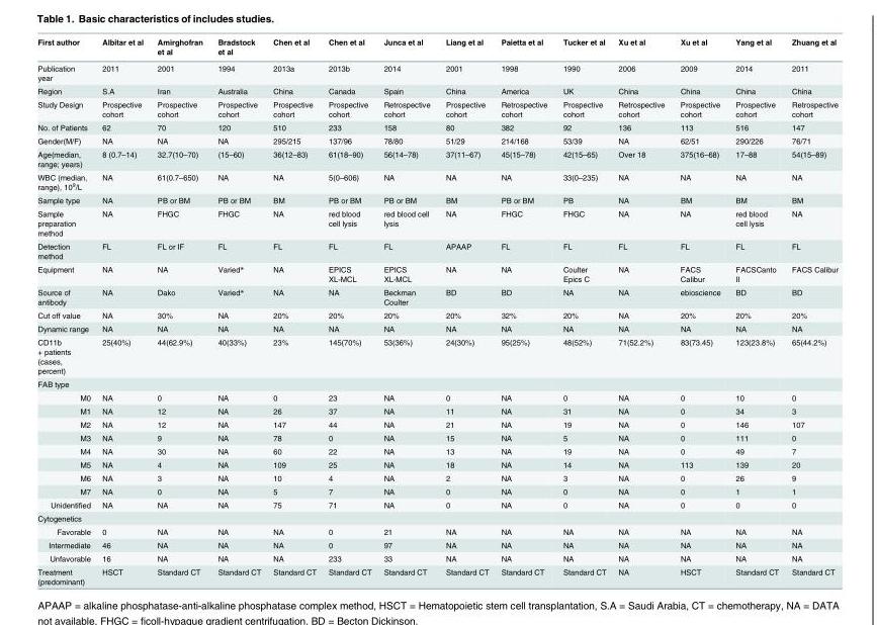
<table><thead><tr><td>First author</td><td>Albitar et al</td><td>Amirghofran et al</td><td>Bradstock et al</td><td>Chen et al</td><td>Chen et al</td><td>Junca et al</td><td>Liang et al</td><td>Paietta et al</td><td>Tucker et al</td><td>Xu et al</td><td>Xu et al</td><td>Yang et al</td><td>Zhuang et al</td></tr></thead><tbody><tr><td>Publication year</td><td>2011</td><td>2001</td><td>1994</td><td>2013a</td><td>2013b</td><td>2014</td><td>2001</td><td>1998</td><td>1990</td><td>2006</td><td>2009</td><td>2014</td><td>2011</td></tr><tr><td>Region</td><td>S.A</td><td>Iran</td><td>Australia</td><td>China</td><td>Canada</td><td>Spain</td><td>China</td><td>America</td><td>UK</td><td>China</td><td>China</td><td>China</td><td>China</td></tr><tr><td>Study Design</td><td>Prospective cohort</td><td>Prospective cohort</td><td>Prospective cohort</td><td>Prospective cohort</td><td>Prospective cohort</td><td>Retrospective cohort</td><td>Prospective cohort</td><td>Retrospective cohort</td><td>Prospective cohort</td><td>Retrospective cohort</td><td>Prospective cohort</td><td>Prospective cohort</td><td>Retrospective cohort</td></tr><tr><td>No. of Patients</td><td>62</td><td>70</td><td>120</td><td>510</td><td>233</td><td>158</td><td>80</td><td>382</td><td>92</td><td>136</td><td>113</td><td>516</td><td>147</td></tr><tr><td>Gender(M/F)</td><td>NA</td><td>NA</td><td>NA</td><td>295/215</td><td>137/96</td><td>78/80</td><td>51/29</td><td>214/168</td><td>53/39</td><td>NA</td><td>62/51</td><td>290/226</td><td>76/71</td></tr><tr><td>Age(median, range; years)</td><td>8 (0.7–14)</td><td>32.7(10–70)</td><td>(15–60)</td><td>36(12–83)</td><td>61(18–90)</td><td>56(14–78)</td><td>37(11–67)</td><td>45(15–78)</td><td>42(15–65)</td><td>Over 18</td><td>375(16–68)</td><td>17–88</td><td>54(15–89)</td></tr><tr><td>WBC (median, range), 10<sup>9</sup>/L</td><td>NA</td><td>61(0.7–650)</td><td>NA</td><td>NA</td><td>5(0–606)</td><td>NA</td><td>NA</td><td>NA</td><td>33(0–235)</td><td>NA</td><td>NA</td><td>NA</td><td>NA</td></tr><tr><td>Sample type</td><td>NA</td><td>PB or BM</td><td>PB or BM</td><td>BM</td><td>PB or BM</td><td>PB or BM</td><td>BM</td><td>PB or BM</td><td>PB</td><td>NA</td><td>BM</td><td>BM</td><td>BM</td></tr><tr><td>Sample preparation method</td><td>NA</td><td>FHGC</td><td>FHGC</td><td>NA</td><td>red blood cell lysis</td><td>red blood cell lysis</td><td>NA</td><td>FHGC</td><td>FHGC</td><td>NA</td><td>NA</td><td>red blood cell lysis</td><td>NA</td></tr><tr><td>Detection method</td><td>FL</td><td>FL or IF</td><td>FL</td><td>FL</td><td>FL</td><td>FL</td><td>APAAP</td><td>FL</td><td>FL</td><td>FL</td><td>FL</td><td>FL</td><td>FL</td></tr><tr><td>Equipment</td><td>NA</td><td>NA</td><td>Varied*</td><td>NA</td><td>EPICS XL-MCL</td><td>EPICS XL-MCL</td><td>NA</td><td>NA</td><td>Coulter Epics C</td><td>NA</td><td>FACS Calibur</td><td>FACSCanto II</td><td>FACS Calibur</td></tr><tr><td>Source of antibody</td><td>NA</td><td>Dako</td><td>Varied*</td><td>NA</td><td>NA</td><td>Beckman Coulter</td><td>BD</td><td>BD</td><td>NA</td><td>NA</td><td>ebioscience</td><td>BD</td><td>BD</td></tr><tr><td>Cut off value</td><td>NA</td><td>30%</td><td>NA</td><td>20%</td><td>20%</td><td>20%</td><td>20%</td><td>32%</td><td>20%</td><td>NA</td><td>20%</td><td>20%</td><td>20%</td></tr><tr><td>Dynamic range</td><td>NA</td><td>NA</td><td>NA</td><td>NA</td><td>NA</td><td>NA</td><td>NA</td><td>NA</td><td>NA</td><td>NA</td><td>NA</td><td>NA</td><td>NA</td></tr><tr><td>CD11b + patients (cases, percent)</td><td>25(40%)</td><td>44(62.9%)</td><td>40(33%)</td><td>23%</td><td>145(70%)</td><td>53(36%)</td><td>24(30%)</td><td>95(25%)</td><td>48(52%)</td><td>71(52.2%)</td><td>83(73.45)</td><td>123(23.8%)</td><td>65(44.2%)</td></tr><tr><td colspan="14">FAB type</td></tr><tr><td>M0</td><td>NA</td><td>0</td><td>NA</td><td>0</td><td>23</td><td>NA</td><td>0</td><td>NA</td><td>0</td><td>NA</td><td>0</td><td>10</td><td>0</td></tr><tr><td>M1</td><td>NA</td><td>12</td><td>NA</td><td>26</td><td>37</td><td>NA</td><td>11</td><td>NA</td><td>31</td><td>NA</td><td>0</td><td>34</td><td>3</td></tr><tr><td>M2</td><td>NA</td><td>12</td><td>NA</td><td>147</td><td>44</td><td>NA</td><td>21</td><td>NA</td><td>19</td><td>NA</td><td>0</td><td>146</td><td>107</td></tr><tr><td>M3</td><td>NA</td><td>9</td><td>NA</td><td>78</td><td>0</td><td>NA</td><td>15</td><td>NA</td><td>5</td><td>NA</td><td>0</td><td>111</td><td>0</td></tr><tr><td>M4</td><td>NA</td><td>30</td><td>NA</td><td>60</td><td>22</td><td>NA</td><td>13</td><td>NA</td><td>19</td><td>NA</td><td>0</td><td>49</td><td>7</td></tr><tr><td>M5</td><td>NA</td><td>4</td><td>NA</td><td>109</td><td>25</td><td>NA</td><td>18</td><td>NA</td><td>14</td><td>NA</td><td>113</td><td>139</td><td>20</td></tr><tr><td>M6</td><td>NA</td><td>3</td><td>NA</td><td>10</td><td>4</td><td>NA</td><td>2</td><td>NA</td><td>3</td><td>NA</td><td>0</td><td>26</td><td>9</td></tr><tr><td>M7</td><td>NA</td><td>0</td><td>NA</td><td>5</td><td>7</td><td>NA</td><td>0</td><td>NA</td><td>0</td><td>NA</td><td>0</td><td>1</td><td>1</td></tr><tr><td>Unidentified</td><td>NA</td><td>NA</td><td>NA</td><td>75</td><td>71</td><td>NA</td><td>0</td><td>NA</td><td>0</td><td>NA</td><td>0</td><td>0</td><td>0</td></tr><tr><td colspan="14">Cytogenetics</td></tr><tr><td>Favorable</td><td>0</td><td>NA</td><td>NA</td><td>NA</td><td>0</td><td>21</td><td>NA</td><td>NA</td><td>NA</td><td>NA</td><td>NA</td><td>NA</td><td>NA</td></tr><tr><td>Intermediate</td><td>46</td><td>NA</td><td>NA</td><td>NA</td><td>0</td><td>97</td><td>NA</td><td>NA</td><td>NA</td><td>NA</td><td>NA</td><td>NA</td><td>NA</td></tr><tr><td>Unfavorable</td><td>16</td><td>NA</td><td>NA</td><td>NA</td><td>233</td><td>33</td><td>NA</td><td>NA</td><td>NA</td><td>NA</td><td>NA</td><td>NA</td><td>NA</td></tr><tr><td>Treatment (predominant)</td><td>HSCT</td><td>Standard CT</td><td>Standard CT</td><td>Standard CT</td><td>Standard CT</td><td>Standard CT</td><td>Standard CT</td><td>Standard CT</td><td>Standard CT</td><td>NA</td><td>HSCT</td><td>Standard CT</td><td>Standard CT</td></tr></tbody></table>